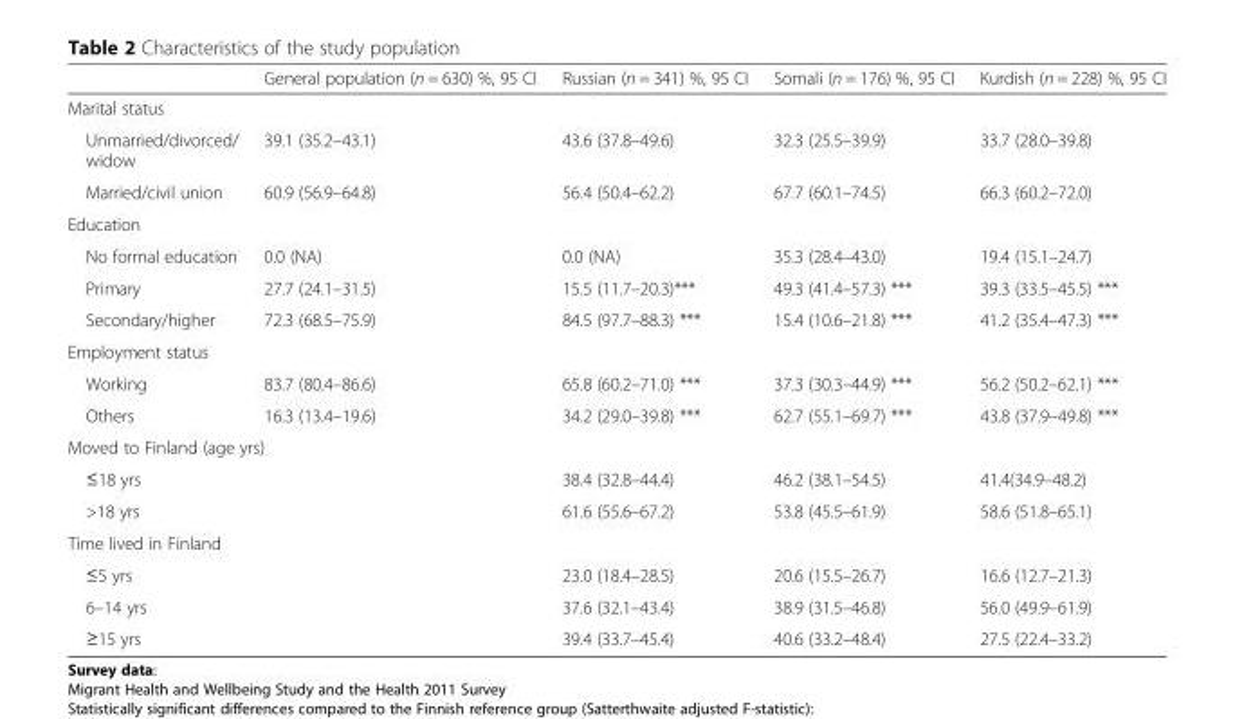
<table><thead><tr><td></td><td>General population (n = 630) %, 95 CI</td><td>Russian (n = 341) %, 95 CI</td><td>Somali (n = 176) %, 95 CI</td><td>Kurdish (n = 228) %, 95 CI</td></tr></thead><tbody><tr><td colspan="5">Marital status</td></tr><tr><td>Unmarried/divorced/ widow</td><td>39.1 (35.2–43.1)</td><td>43.6 (37.8–49.6)</td><td>32.3 (25.5–39.9)</td><td>33.7 (28.0–39.8)</td></tr><tr><td>Married/civil union</td><td>60.9 (56.9–64.8)</td><td>56.4 (50.4–62.2)</td><td>67.7 (60.1–74.5)</td><td>66.3 (60.2–72.0)</td></tr><tr><td colspan="5">Education</td></tr><tr><td>No formal education</td><td>0.0 (NA)</td><td>0.0 (NA)</td><td>35.3 (28.4–43.0)</td><td>19.4 (15.1–24.7)</td></tr><tr><td>Primary</td><td>27.7 (24.1–31.5)</td><td>15.5 (11.7–20.3)***</td><td>49.3 (41.4–57.3) ***</td><td>39.3 (33.5–45.5) ***</td></tr><tr><td>Secondary/higher</td><td>72.3 (68.5–75.9)</td><td>84.5 (97.7–88.3) ***</td><td>15.4 (10.6–21.8) ***</td><td>41.2 (35.4–47.3) ***</td></tr><tr><td colspan="5">Employment status</td></tr><tr><td>Working</td><td>83.7 (80.4–86.6)</td><td>65.8 (60.2–71.0) ***</td><td>37.3 (30.3–44.9) ***</td><td>56.2 (50.2–62.1) ***</td></tr><tr><td>Others</td><td>16.3 (13.4–19.6)</td><td>34.2 (29.0–39.8) ***</td><td>62.7 (55.1–69.7) ***</td><td>43.8 (37.9–49.8) ***</td></tr><tr><td colspan="5">Moved to Finland (age yrs)</td></tr><tr><td>≤18 yrs</td><td></td><td>38.4 (32.8–44.4)</td><td>46.2 (38.1–54.5)</td><td>41.4(34.9–48.2)</td></tr><tr><td>&gt;18 yrs</td><td></td><td>61.6 (55.6–67.2)</td><td>53.8 (45.5–61.9)</td><td>58.6 (51.8–65.1)</td></tr><tr><td colspan="5">Time lived in Finland</td></tr><tr><td>≤5 yrs</td><td></td><td>23.0 (18.4–28.5)</td><td>20.6 (15.5–26.7)</td><td>16.6 (12.7–21.3)</td></tr><tr><td>6–14 yrs</td><td></td><td>37.6 (32.1–43.4)</td><td>38.9 (31.5–46.8)</td><td>56.0 (49.9–61.9)</td></tr><tr><td>≥15 yrs</td><td></td><td>39.4 (33.7–45.4)</td><td>40.6 (33.2–48.4)</td><td>27.5 (22.4–33.2)</td></tr></tbody></table>